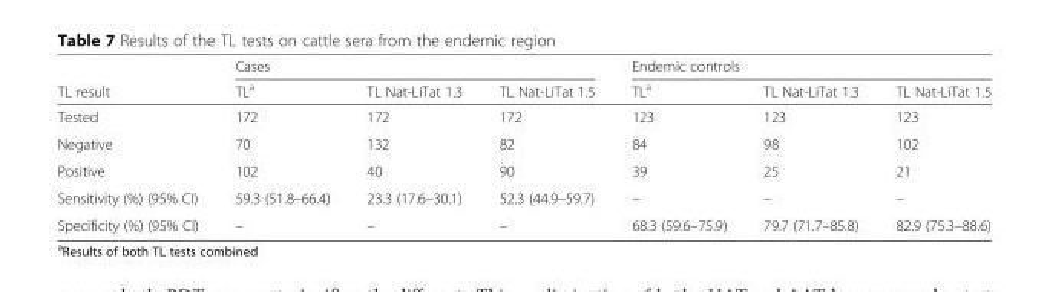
<table><thead><tr><td rowspan="2">TL result</td><td colspan="3">Cases</td><td colspan="3">Endemic controls</td></tr><tr><td>TL<sup>a</sup></td><td>TL Nat-LiTat 1.3</td><td>TL Nat-LiTat 1.5</td><td>TL<sup>a</sup></td><td>TL Nat-LiTat 1.3</td><td>TL Nat-LiTat 1.5</td></tr></thead><tbody><tr><td>Tested</td><td>172</td><td>172</td><td>172</td><td>123</td><td>123</td><td>123</td></tr><tr><td>Negative</td><td>70</td><td>132</td><td>82</td><td>84</td><td>98</td><td>102</td></tr><tr><td>Positive</td><td>102</td><td>40</td><td>90</td><td>39</td><td>25</td><td>21</td></tr><tr><td>Sensitivity (%) (95% CI)</td><td>59.3 (51.8–66.4)</td><td>23.3 (17.6–30.1)</td><td>52.3 (44.9–59.7)</td><td>–</td><td>–</td><td>–</td></tr><tr><td>Specificity (%) (95% CI)</td><td>–</td><td>–</td><td>–</td><td>68.3 (59.6–75.9)</td><td>79.7 (71.7–85.8)</td><td>82.9 (75.3–88.6)</td></tr></tbody></table>